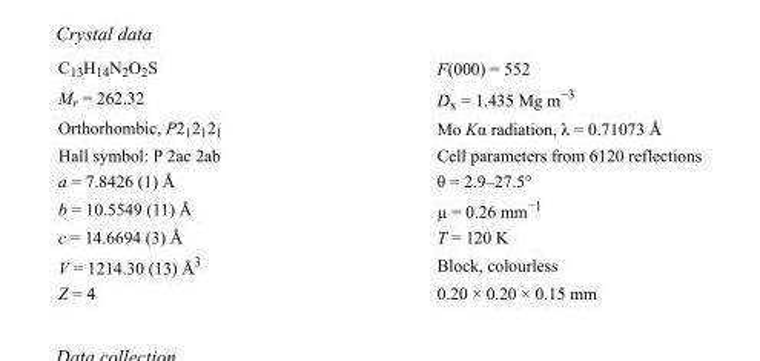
<table><tbody><tr><td>C<sub>13</sub>H<sub>14</sub>N<sub>2</sub>O<sub>2</sub>S</td><td>F(000) = 552</td></tr><tr><td>M<sub>r</sub> = 262.32</td><td>D<sub>x</sub> = 1.435 Mg m<sup>−3</sup></td></tr><tr><td>Orthorhombic, P2<sub>1</sub>2<sub>1</sub>2<sub>1</sub></td><td>Mo Kα radiation, λ = 0.71073 Å</td></tr><tr><td>Hall symbol: P 2ac 2ab</td><td>Cell parameters from 6120 reflections</td></tr><tr><td>a = 7.8426 (1) Å</td><td>θ = 2.9–27.5°</td></tr><tr><td>b = 10.5549 (11) Å</td><td>µ = 0.26 mm<sup>−1</sup></td></tr><tr><td>c = 14.6694 (3) Å</td><td>T = 120 K</td></tr><tr><td>V = 1214.30 (13) Å<sup>3</sup></td><td>Block, colourless</td></tr><tr><td>Z = 4</td><td>0.20 × 0.20 × 0.15 mm</td></tr></tbody></table>